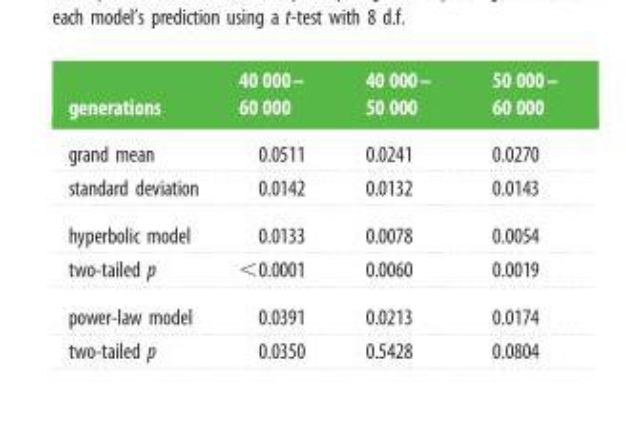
<table><thead><tr><td>generations</td><td>40 000– 60 000</td><td>40 000– 50 000</td><td>50 000– 60 000</td></tr></thead><tbody><tr><td>grand mean</td><td>0.0511</td><td>0.0241</td><td>0.0270</td></tr><tr><td>standard deviation</td><td>0.0142</td><td>0.0132</td><td>0.0143</td></tr><tr><td>hyperbolic model</td><td>0.0133</td><td>0.0078</td><td>0.0054</td></tr><tr><td>two-tailed p</td><td>&lt;0.0001</td><td>0.0060</td><td>0.0019</td></tr><tr><td>power-law model</td><td>0.0391</td><td>0.0213</td><td>0.0174</td></tr><tr><td>two-tailed p</td><td>0.0350</td><td>0.5428</td><td>0.0804</td></tr></tbody></table>